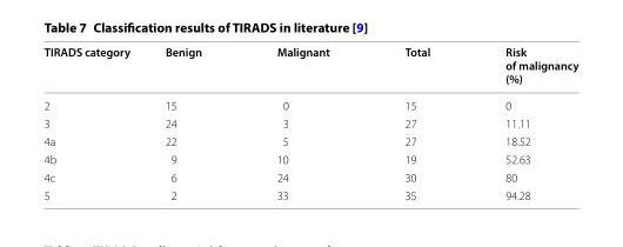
<table><thead><tr><td>TIRADS category</td><td>Benign</td><td>Malignant</td><td>Total</td><td>Risk of malignancy (%)</td></tr></thead><tbody><tr><td>2</td><td>15</td><td>0</td><td>15</td><td>0</td></tr><tr><td>3</td><td>24</td><td>3</td><td>27</td><td>11.11</td></tr><tr><td>4a</td><td>22</td><td>5</td><td>27</td><td>18.52</td></tr><tr><td>4b</td><td>9</td><td>10</td><td>19</td><td>52.63</td></tr><tr><td>4c</td><td>6</td><td>24</td><td>30</td><td>80</td></tr><tr><td>5</td><td>2</td><td>33</td><td>35</td><td>94.28</td></tr></tbody></table>